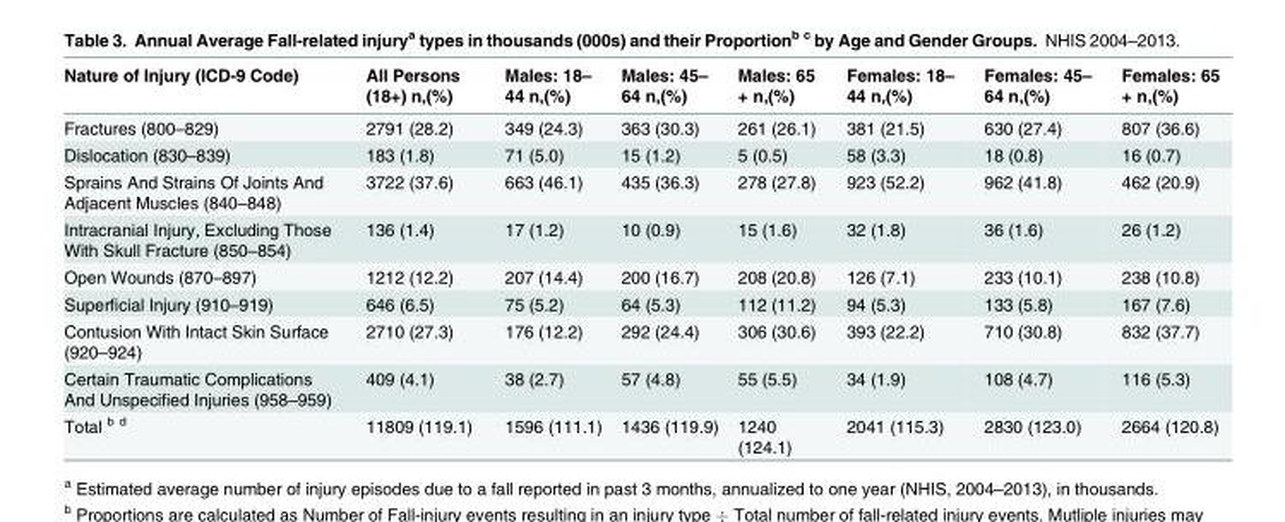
<table><thead><tr><td>Nature of Injury (ICD-9 Code)</td><td>All Persons (18+) n,(%)</td><td>Males: 18– 44 n,(%)</td><td>Males: 45– 64 n,(%)</td><td>Males: 65 + n,(%)</td><td>Females: 18– 44 n,(%)</td><td>Females: 45– 64 n,(%)</td><td>Females: 65 + n,(%)</td></tr></thead><tbody><tr><td>Fractures (800–829)</td><td>2791 (28.2)</td><td>349 (24.3)</td><td>363 (30.3)</td><td>261 (26.1)</td><td>381 (21.5)</td><td>630 (27.4)</td><td>807 (36.6)</td></tr><tr><td>Dislocation (830–839)</td><td>183 (1.8)</td><td>71 (5.0)</td><td>15 (1.2)</td><td>5 (0.5)</td><td>58 (3.3)</td><td>18 (0.8)</td><td>16 (0.7)</td></tr><tr><td>Sprains And Strains Of Joints And Adjacent Muscles (840–848)</td><td>3722 (37.6)</td><td>663 (46.1)</td><td>435 (36.3)</td><td>278 (27.8)</td><td>923 (52.2)</td><td>962 (41.8)</td><td>462 (20.9)</td></tr><tr><td>Intracranial Injury, Excluding Those With Skull Fracture (850–854)</td><td>136 (1.4)</td><td>17 (1.2)</td><td>10 (0.9)</td><td>15 (1.6)</td><td>32 (1.8)</td><td>36 (1.6)</td><td>26 (1.2)</td></tr><tr><td>Open Wounds (870–897)</td><td>1212 (12.2)</td><td>207 (14.4)</td><td>200 (16.7)</td><td>208 (20.8)</td><td>126 (7.1)</td><td>233 (10.1)</td><td>238 (10.8)</td></tr><tr><td>Superficial Injury (910–919)</td><td>646 (6.5)</td><td>75 (5.2)</td><td>64 (5.3)</td><td>112 (11.2)</td><td>94 (5.3)</td><td>133 (5.8)</td><td>167 (7.6)</td></tr><tr><td>Contusion With Intact Skin Surface (920–924)</td><td>2710 (27.3)</td><td>176 (12.2)</td><td>292 (24.4)</td><td>306 (30.6)</td><td>393 (22.2)</td><td>710 (30.8)</td><td>832 (37.7)</td></tr><tr><td>Certain Traumatic Complications And Unspecified Injuries (958–959)</td><td>409 (4.1)</td><td>38 (2.7)</td><td>57 (4.8)</td><td>55 (5.5)</td><td>34 (1.9)</td><td>108 (4.7)</td><td>116 (5.3)</td></tr><tr><td>Total <sup>b d</sup></td><td>11809 (119.1)</td><td>1596 (111.1)</td><td>1436 (119.9)</td><td>1240 (124.1)</td><td>2041 (115.3)</td><td>2830 (123.0)</td><td>2664 (120.8)</td></tr></tbody></table>